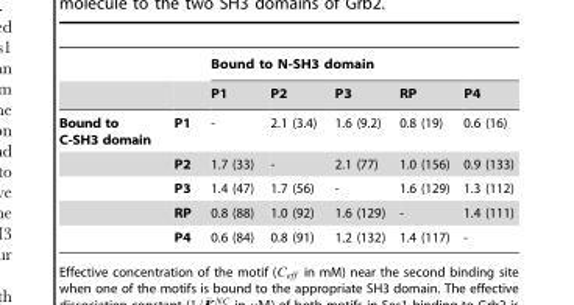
<table><thead><tr><td rowspan="2"></td><td rowspan="2"></td><td colspan="5">Bound to N-SH3 domain</td></tr><tr><td>P1</td><td>P2</td><td>P3</td><td>RP</td><td>P4</td></tr></thead><tbody><tr><td rowspan="5">Bound to C-SH3 domain</td><td>P1</td><td>-</td><td>2.1 (3.4)</td><td>1.6 (9.2)</td><td>0.8 (19)</td><td>0.6 (16)</td></tr><tr><td>P2</td><td>1.7 (33)</td><td>-</td><td>2.1 (77)</td><td>1.0 (156)</td><td>0.9 (133)</td></tr><tr><td>P3</td><td>1.4 (47)</td><td>1.7 (56)</td><td>-</td><td>1.6 (129)</td><td>1.3 (112)</td></tr><tr><td>RP</td><td>0.8 (88)</td><td>1.0 (92)</td><td>1.6 (129)</td><td>-</td><td>1.4 (111)</td></tr><tr><td>P4</td><td>0.6 (84)</td><td>0.8 (91)</td><td>1.2 (132)</td><td>1.4 (117)</td><td>-</td></tr></tbody></table>